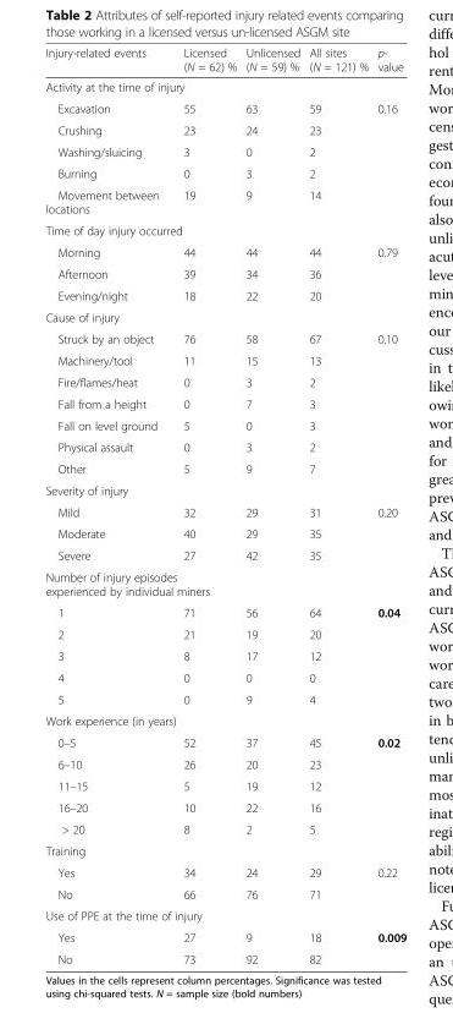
<table><thead><tr><td>Injury-related events</td><td>Licensed (N = 62) %</td><td>Unlicensed (N = 59) %</td><td>All sites (N = 121) %</td><td>p- value</td></tr></thead><tbody><tr><td colspan="5">Activity at the time of injury</td></tr><tr><td>Excavation</td><td>55</td><td>63</td><td>59</td><td rowspan="5">0.16</td></tr><tr><td>Crushing</td><td>23</td><td>24</td><td>23</td></tr><tr><td>Washing/sluicing</td><td>3</td><td>0</td><td>2</td></tr><tr><td>Burning</td><td>0</td><td>3</td><td>2</td></tr><tr><td>Movement between locations</td><td>19</td><td>9</td><td>14</td></tr><tr><td colspan="5">Time of day injury occurred</td></tr><tr><td>Morning</td><td>44</td><td>44</td><td>44</td><td rowspan="3">0.79</td></tr><tr><td>Afternoon</td><td>39</td><td>34</td><td>36</td></tr><tr><td>Evening/night</td><td>18</td><td>22</td><td>20</td></tr><tr><td colspan="5">Cause of injury</td></tr><tr><td>Struck by an object</td><td>76</td><td>58</td><td>67</td><td rowspan="7">0.10</td></tr><tr><td>Machinery/tool</td><td>11</td><td>15</td><td>13</td></tr><tr><td>Fire/flames/heat</td><td>0</td><td>3</td><td>2</td></tr><tr><td>Fall from a height</td><td>0</td><td>7</td><td>3</td></tr><tr><td>Fall on level ground</td><td>5</td><td>0</td><td>3</td></tr><tr><td>Physical assault</td><td>0</td><td>3</td><td>2</td></tr><tr><td>Other</td><td>5</td><td>9</td><td>7</td></tr><tr><td colspan="5">Severity of injury</td></tr><tr><td>Mild</td><td>32</td><td>29</td><td>31</td><td rowspan="3">0.20</td></tr><tr><td>Moderate</td><td>40</td><td>29</td><td>35</td></tr><tr><td>Severe</td><td>27</td><td>42</td><td>35</td></tr><tr><td colspan="5">Number of injury episodes experienced by individual miners</td></tr><tr><td>1</td><td>71</td><td>56</td><td>64</td><td rowspan="5">0.04</td></tr><tr><td>2</td><td>21</td><td>19</td><td>20</td></tr><tr><td>3</td><td>8</td><td>17</td><td>12</td></tr><tr><td>4</td><td>0</td><td>0</td><td>0</td></tr><tr><td>5</td><td>0</td><td>9</td><td>4</td></tr><tr><td colspan="5">Work experience (in years)</td></tr><tr><td>0–5</td><td>52</td><td>37</td><td>45</td><td rowspan="5">0.02</td></tr><tr><td>6–10</td><td>26</td><td>20</td><td>23</td></tr><tr><td>11–15</td><td>5</td><td>19</td><td>12</td></tr><tr><td>16–20</td><td>10</td><td>22</td><td>16</td></tr><tr><td>&gt; 20</td><td>8</td><td>2</td><td>5</td></tr><tr><td colspan="5">Training</td></tr><tr><td>Yes</td><td>34</td><td>24</td><td>29</td><td rowspan="2">0.22</td></tr><tr><td>No</td><td>66</td><td>76</td><td>71</td></tr><tr><td colspan="5">Use of PPE at the time of injury</td></tr><tr><td>Yes</td><td>27</td><td>9</td><td>18</td><td rowspan="2">0.009</td></tr><tr><td>No</td><td>73</td><td>92</td><td>82</td></tr></tbody></table>